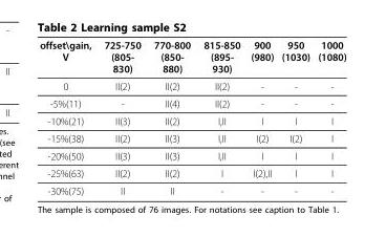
<table><thead><tr><td>offset\gain, V</td><td>725-750 (805- 830)</td><td>770-800 (850- 880)</td><td>815-850 (895- 930)</td><td>900 (980)</td><td>950 (1030)</td><td>1000 (1080)</td></tr></thead><tbody><tr><td>0</td><td>II(2)</td><td>II(2)</td><td>II(2)</td><td>-</td><td>-</td><td>-</td></tr><tr><td>-5%(11)</td><td>-</td><td>II(4)</td><td>II(2)</td><td>-</td><td>-</td><td>-</td></tr><tr><td>-10%(21)</td><td>II(3)</td><td>II(2)</td><td>I,II</td><td>I</td><td>I</td><td>I</td></tr><tr><td>-15%(38)</td><td>II(2)</td><td>II(3)</td><td>I,II</td><td>I(2)</td><td>I(2)</td><td>I</td></tr><tr><td>-20%(50)</td><td>II(3)</td><td>II(3)</td><td>I,II</td><td>I</td><td>I</td><td>I</td></tr><tr><td>-25%(63)</td><td>II(2)</td><td>II(2)</td><td>I</td><td>I(2),II</td><td>I</td><td>I</td></tr><tr><td>-30%(75)</td><td>II</td><td>II</td><td>-</td><td>-</td><td>-</td><td>-</td></tr></tbody></table>